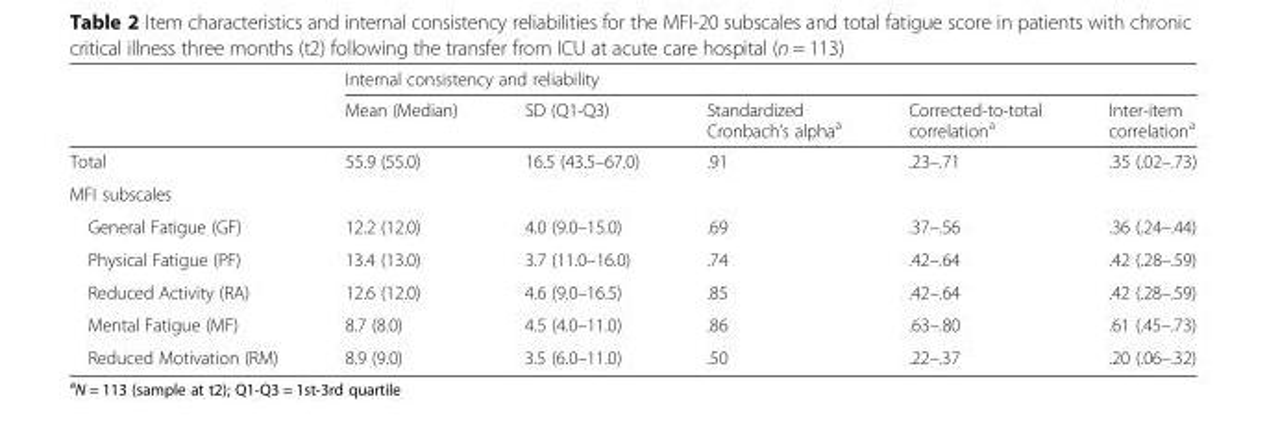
<table><thead><tr><td rowspan="2"></td><td colspan="5">Internal consistency and reliability</td></tr><tr><td>Mean (Median)</td><td>SD (Q1-Q3)</td><td>Standardized Cronbach’s alpha<sup>a</sup></td><td>Corrected-to-total correlation<sup>a</sup></td><td>Inter-item correlation<sup>a</sup></td></tr></thead><tbody><tr><td>Total</td><td>55.9 (55.0)</td><td>16.5 (43.5–67.0)</td><td>.91</td><td>.23–.71</td><td>.35 (.02–.73)</td></tr><tr><td colspan="6">MFI subscales</td></tr><tr><td>General Fatigue (GF)</td><td>12.2 (12.0)</td><td>4.0 (9.0–15.0)</td><td>.69</td><td>.37–.56</td><td>.36 (.24–.44)</td></tr><tr><td>Physical Fatigue (PF)</td><td>13.4 (13.0)</td><td>3.7 (11.0–16.0)</td><td>.74</td><td>.42–.64</td><td>.42 (.28–.59)</td></tr><tr><td>Reduced Activity (RA)</td><td>12.6 (12.0)</td><td>4.6 (9.0–16.5)</td><td>.85</td><td>.42–.64</td><td>.42 (.28–.59)</td></tr><tr><td>Mental Fatigue (MF)</td><td>8.7 (8.0)</td><td>4.5 (4.0–11.0)</td><td>.86</td><td>.63–.80</td><td>.61 (.45–.73)</td></tr><tr><td>Reduced Motivation (RM)</td><td>8.9 (9.0)</td><td>3.5 (6.0–11.0)</td><td>.50</td><td>.22–.37</td><td>.20 (.06–.32)</td></tr></tbody></table>